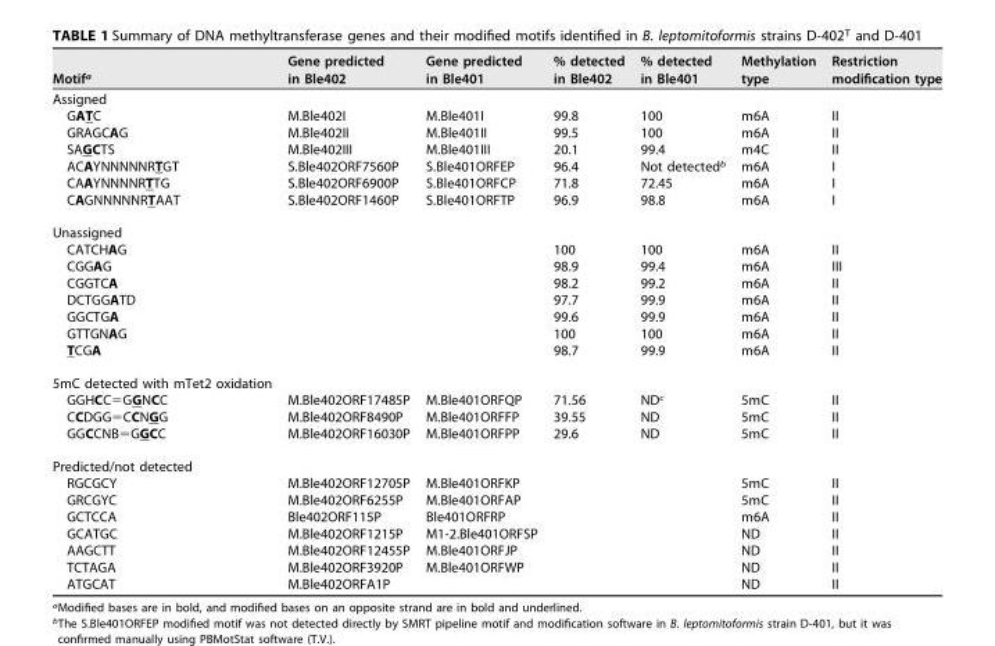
<table><thead><tr><td>Motif<sup>a</sup></td><td>Gene predicted in Ble402</td><td>Gene predicted in Ble401</td><td>% detected in Ble402</td><td>% detected in Ble401</td><td>Methylation type</td><td>Restriction modification type</td></tr></thead><tbody><tr><td colspan="7">Assigned</td></tr><tr><td>GATC</td><td>M.Ble402I</td><td>M.Ble401I</td><td>99.8</td><td>100</td><td>m6A</td><td>II</td></tr><tr><td>GRAGCAG</td><td>M.Ble402II</td><td>M.Ble401II</td><td>99.5</td><td>100</td><td>m6A</td><td>II</td></tr><tr><td>SAGCTS</td><td>M.Ble402III</td><td>M.Ble401III</td><td>20.1</td><td>99.4</td><td>m4C</td><td>II</td></tr><tr><td>ACAYNNNNNRTGT</td><td>S.Ble402ORF7560P</td><td>S.Ble401ORFEP</td><td>96.4</td><td>Not detected<sup>b</sup></td><td>m6A</td><td>I</td></tr><tr><td>CAAYNNNNRTTG</td><td>S.Ble402ORF6900P</td><td>S.Ble401ORFCP</td><td>71.8</td><td>72.45</td><td>m6A</td><td>I</td></tr><tr><td>CAGNNNNNRTAAT</td><td>S.Ble402ORF1460P</td><td>S.Ble401ORFTP</td><td>96.9</td><td>98.8</td><td>m6A</td><td>I</td></tr><tr><td colspan="7">Unassigned</td></tr><tr><td>CATCHAG</td><td></td><td></td><td>100</td><td>100</td><td>m6A</td><td>II</td></tr><tr><td>CGGAG</td><td></td><td></td><td>98.9</td><td>99.4</td><td>m6A</td><td>III</td></tr><tr><td>CGGTCA</td><td></td><td></td><td>98.2</td><td>99.2</td><td>m6A</td><td>II</td></tr><tr><td>DCTGGATD</td><td></td><td></td><td>97.7</td><td>99.9</td><td>m6A</td><td>II</td></tr><tr><td>GGCTGA</td><td></td><td></td><td>99.6</td><td>99.9</td><td>m6A</td><td>II</td></tr><tr><td>GTTGNAG</td><td></td><td></td><td>100</td><td>100</td><td>m6A</td><td>II</td></tr><tr><td>TCGA</td><td></td><td></td><td>98.7</td><td>99.9</td><td>m6A</td><td>II</td></tr><tr><td colspan="7">5mC detected with mTet2 oxidation</td></tr><tr><td>GGHCC=GGNCC</td><td>M.Ble402ORF17485P</td><td>M.Ble401ORFQP</td><td>71.56</td><td>ND<sup>c</sup></td><td>5mC</td><td>II</td></tr><tr><td>CCDGG=CCNGG</td><td>M.Ble402ORF8490P</td><td>M.Ble401ORFFP</td><td>39.55</td><td>ND</td><td>5mC</td><td>II</td></tr><tr><td>GGCCNB=GGCC</td><td>M.Ble402ORF16030P</td><td>M.Ble401ORFPP</td><td>29.6</td><td>ND</td><td>5mC</td><td>II</td></tr><tr><td colspan="7">Predicted/not detected</td></tr><tr><td>RGCGCY</td><td>M.Ble402ORF12705P</td><td>M.Ble401ORFKP</td><td></td><td></td><td>5mC</td><td>II</td></tr><tr><td>GRCGYC</td><td>M.Ble402ORF6255P</td><td>M.Ble401ORFAP</td><td></td><td></td><td>5mC</td><td>II</td></tr><tr><td>GCTCCA</td><td>Ble402ORF115P</td><td>Ble401ORFRP</td><td></td><td></td><td>m6A</td><td>II</td></tr><tr><td>GCATGC</td><td>M.Ble402ORF1215P</td><td>M1-2.Ble401ORFSP</td><td></td><td></td><td>ND</td><td>II</td></tr><tr><td>AAGCTT</td><td>M.Ble402ORF12455P</td><td>M.Ble401ORFJP</td><td></td><td></td><td>ND</td><td>II</td></tr><tr><td>TCTAGA</td><td>M.Ble402ORF3920P</td><td>M.Ble401ORFWP</td><td></td><td></td><td>ND</td><td>II</td></tr><tr><td>ATGCAT</td><td>M.Ble402ORFA1P</td><td></td><td></td><td></td><td>ND</td><td>II</td></tr></tbody></table>